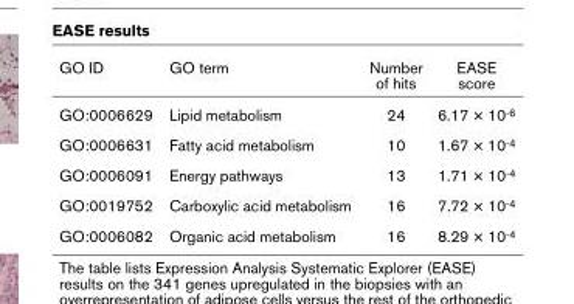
<table><thead><tr><td>GO ID</td><td>GO term</td><td>Number of hits</td><td>EASE score</td></tr></thead><tbody><tr><td>GO:0006629</td><td>Lipid metabolism</td><td>24</td><td>6.17 × 10-6</td></tr><tr><td>GO:0006631</td><td>Fatty acid metabolism</td><td>10</td><td>1.67 × 10-4</td></tr><tr><td>GO:0006091</td><td>Energy pathways</td><td>13</td><td>1.71 × 10-4</td></tr><tr><td>GO:0019752</td><td>Carboxylic acid metabolism</td><td>16</td><td>7.72 × 10-4</td></tr><tr><td>GO:0006082</td><td>Organic acid metabolism</td><td>16</td><td>8.29 × 10-4</td></tr></tbody></table>